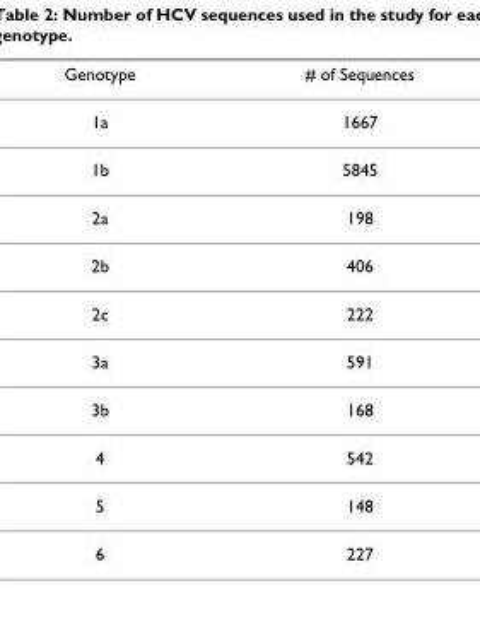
<table><thead><tr><td>Genotype</td><td># of Sequences</td></tr></thead><tbody><tr><td>1a</td><td>1667</td></tr><tr><td>1b</td><td>5845</td></tr><tr><td>2a</td><td>198</td></tr><tr><td>2b</td><td>406</td></tr><tr><td>2c</td><td>222</td></tr><tr><td>3a</td><td>591</td></tr><tr><td>3b</td><td>168</td></tr><tr><td>4</td><td>542</td></tr><tr><td>5</td><td>148</td></tr><tr><td>6</td><td>227</td></tr></tbody></table>